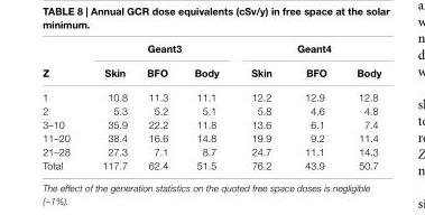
<table><thead><tr><td rowspan="2">Z</td><td colspan="3">geant3</td><td colspan="3">geant4</td></tr><tr><td>skin</td><td>BFO</td><td>Body</td><td>skin</td><td>BFO</td><td>Body</td></tr></thead><tbody><tr><td>1</td><td>10.8</td><td>11.3</td><td>11.1</td><td>12.2</td><td>12.9</td><td>12.8</td></tr><tr><td>2</td><td>5.3</td><td>5.2</td><td>5.1</td><td>5.8</td><td>4.6</td><td>4.8</td></tr><tr><td>3–10</td><td>35.9</td><td>22.2</td><td>11.8</td><td>13.6</td><td>6.1</td><td>7.4</td></tr><tr><td>11–20</td><td>38.4</td><td>16.6</td><td>14.8</td><td>19.9</td><td>9.2</td><td>11.4</td></tr><tr><td>21–28</td><td>27.3</td><td>7.1</td><td>8.7</td><td>24.7</td><td>11.1</td><td>14.3</td></tr><tr><td>Total</td><td>117.7</td><td>62.4</td><td>51.5</td><td>76.2</td><td>43.9</td><td>50.7</td></tr></tbody></table>